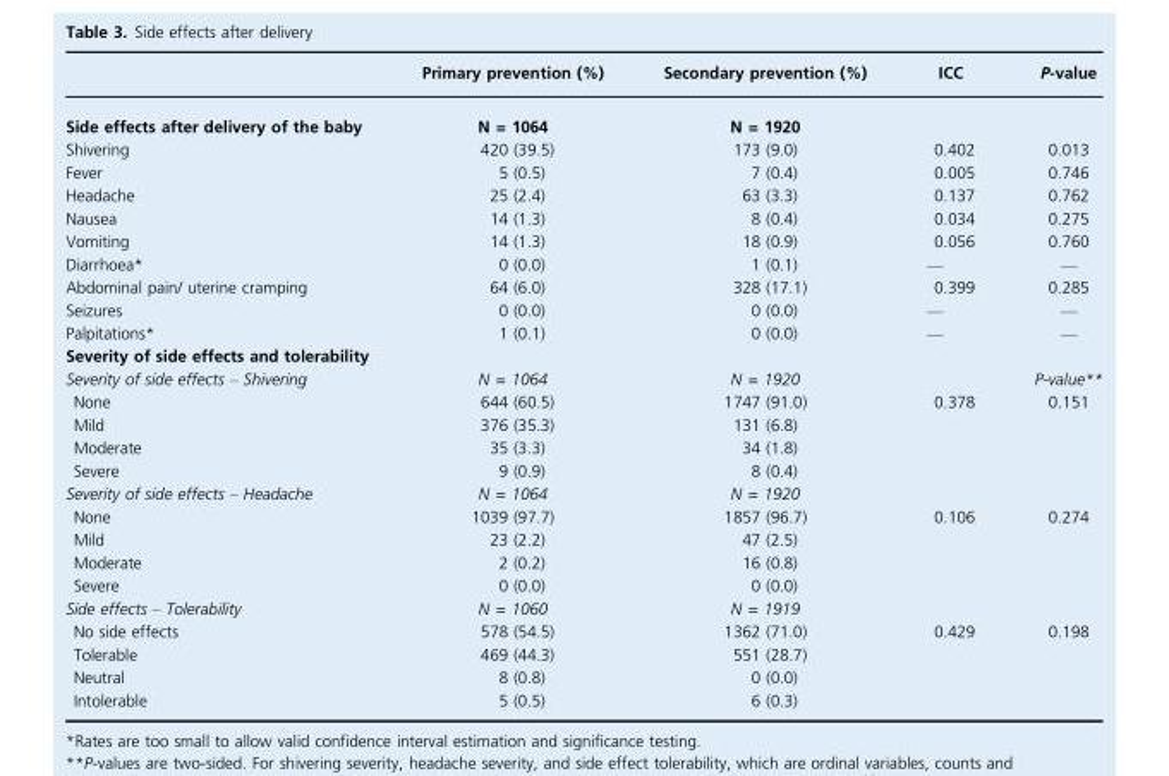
<table><thead><tr><td></td><td>Primary prevention (%)</td><td>Secondary prevention (%)</td><td>ICC</td><td>P-value</td></tr></thead><tbody><tr><td>Side effects after delivery of the baby</td><td>N = 1064</td><td>N = 1920</td><td></td><td></td></tr><tr><td>Shivering</td><td>420 (39.5)</td><td>173 (9.0)</td><td>0.402</td><td>0.013</td></tr><tr><td>Fever</td><td>5 (0.5)</td><td>7 (0.4)</td><td>0.005</td><td>0.746</td></tr><tr><td>Headache</td><td>25 (2.4)</td><td>63 (3.3)</td><td>0.137</td><td>0.762</td></tr><tr><td>Nausea</td><td>14 (1.3)</td><td>8 (0.4)</td><td>0.034</td><td>0.275</td></tr><tr><td>Vomiting</td><td>14 (1.3)</td><td>18 (0.9)</td><td>0.056</td><td>0.760</td></tr><tr><td>Diarrhoea*</td><td>0 (0.0)</td><td>1 (0.1)</td><td>—</td><td>—</td></tr><tr><td>Abdominal pain/ uterine cramping</td><td>64 (6.0)</td><td>328 (17.1)</td><td>0.399</td><td>0.285</td></tr><tr><td>Seizures</td><td>0 (0.0)</td><td>0 (0.0)</td><td>—</td><td>—</td></tr><tr><td>Palpitations*</td><td>1 (0.1)</td><td>0 (0.0)</td><td>—</td><td>—</td></tr><tr><td colspan="5">Severity of side effects and tolerability</td></tr><tr><td>Severity of side effects – Shivering</td><td>N = 1064</td><td>N = 1920</td><td></td><td>P-value**</td></tr><tr><td>None</td><td>644 (60.5)</td><td>1747 (91.0)</td><td>0.378</td><td>0.151</td></tr><tr><td>Mild</td><td>376 (35.3)</td><td>131 (6.8)</td><td></td><td></td></tr><tr><td>Moderate</td><td>35 (3.3)</td><td>34 (1.8)</td><td></td><td></td></tr><tr><td>Severe</td><td>9 (0.9)</td><td>8 (0.4)</td><td></td><td></td></tr><tr><td>Severity of side effects – Headache</td><td>N = 1064</td><td>N = 1920</td><td></td><td></td></tr><tr><td>None</td><td>1039 (97.7)</td><td>1857 (96.7)</td><td>0.106</td><td>0.274</td></tr><tr><td>Mild</td><td>23 (2.2)</td><td>47 (2.5)</td><td></td><td></td></tr><tr><td>Moderate</td><td>2 (0.2)</td><td>16 (0.8)</td><td></td><td></td></tr><tr><td>Severe</td><td>0 (0.0)</td><td>0 (0.0)</td><td></td><td></td></tr><tr><td>Side effects – Tolerability</td><td>N = 1060</td><td>N = 1919</td><td></td><td></td></tr><tr><td>No side effects</td><td>578 (54.5)</td><td>1362 (71.0)</td><td>0.429</td><td>0.198</td></tr><tr><td>Tolerable</td><td>469 (44.3)</td><td>551 (28.7)</td><td></td><td></td></tr><tr><td>Neutral</td><td>8 (0.8)</td><td>0 (0.0)</td><td></td><td></td></tr><tr><td>Intolerable</td><td>5 (0.5)</td><td>6 (0.3)</td><td></td><td></td></tr></tbody></table>